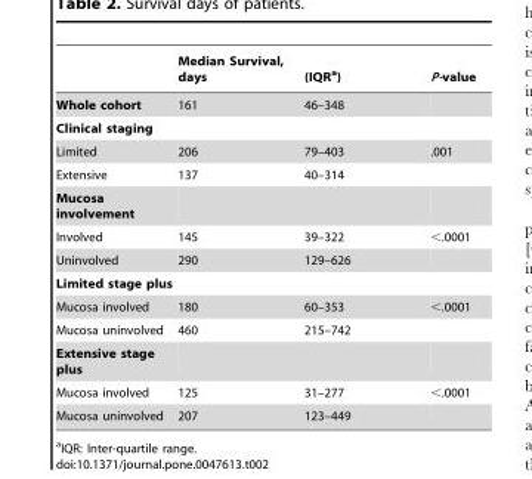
<table><thead><tr><td></td><td>Median Survival, days</td><td>(IQR<sup>a</sup>)</td><td>P-value</td></tr></thead><tbody><tr><td>Whole cohort</td><td>161</td><td>46–348</td><td></td></tr><tr><td colspan="4">Clinical staging</td></tr><tr><td>Limited</td><td>206</td><td>79–403</td><td>.001</td></tr><tr><td>Extensive</td><td>137</td><td>40–314</td><td></td></tr><tr><td colspan="4">Mucosa involvement</td></tr><tr><td>Involved</td><td>145</td><td>39–322</td><td>&lt;.0001</td></tr><tr><td>Uninvolved</td><td>290</td><td>129–626</td><td></td></tr><tr><td colspan="4">Limited stage plus</td></tr><tr><td>Mucosa involved</td><td>180</td><td>60–353</td><td>&lt;.0001</td></tr><tr><td>Mucosa uninvolved</td><td>460</td><td>215–742</td><td></td></tr><tr><td colspan="4">Extensive stage plus</td></tr><tr><td>Mucosa involved</td><td>125</td><td>31–277</td><td>&lt;.0001</td></tr><tr><td>Mucosa uninvolved</td><td>207</td><td>123–449</td><td></td></tr></tbody></table>